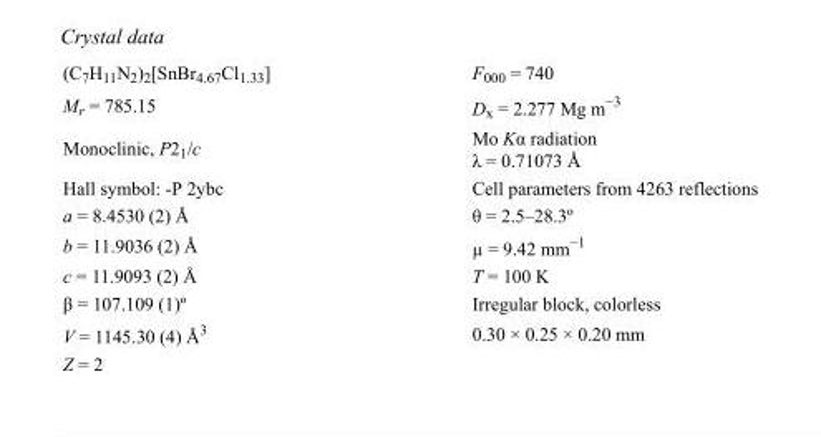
<table><tbody><tr><td>(C<sub>7</sub>H<sub>11</sub>N<sub>2</sub>)<sub>2</sub>[SnBr<sub>4.67</sub>Cl<sub>1.33</sub>]</td><td>F000 = 740</td></tr><tr><td>M<sub>r</sub> = 785.15</td><td>D<sub>x</sub> = 2.277 Mg m<sup>−3</sup></td></tr><tr><td>Monoclinic, P2<sub>1</sub>/c</td><td>Mo Kα radiation λ = 0.71073 Å</td></tr><tr><td>Hall symbol: -P 2ybc</td><td>Cell parameters from 4263 reflections</td></tr><tr><td>a = 8.4530 (2) Å</td><td>θ = 2.5–28.3º</td></tr><tr><td>b = 11.9036 (2) Å</td><td>µ = 9.42 mm<sup>−1</sup></td></tr><tr><td>c = 11.9093 (2) Å</td><td>T = 100 K</td></tr><tr><td>β = 107.109 (1)º</td><td>Irregular block, colorless</td></tr><tr><td>V = 1145.30 (4) Å<sup>3</sup></td><td>0.30 × 0.25 × 0.20 mm</td></tr><tr><td>Z = 2</td><td></td></tr></tbody></table>